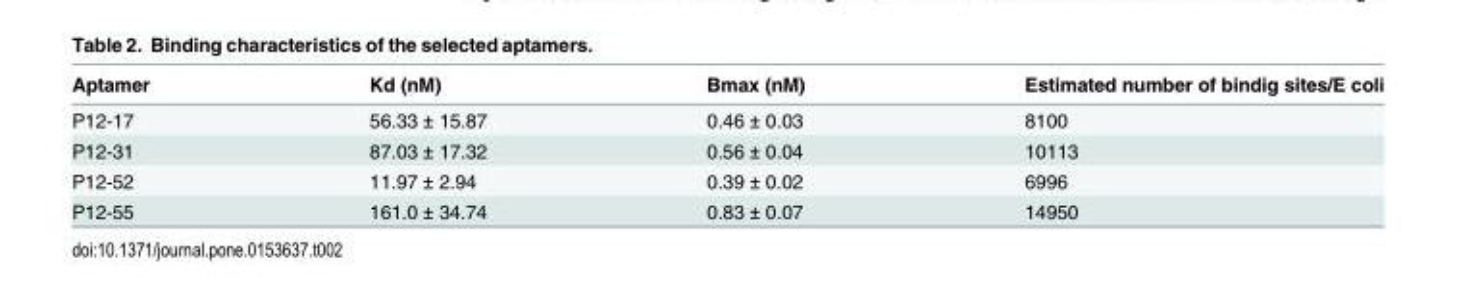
<table><thead><tr><td>Aptamer</td><td>Kd (nM)</td><td>Bmax (nM)</td><td>Estimated number of bindig sites/E coli</td></tr></thead><tbody><tr><td>P12-17</td><td>56.33 ± 15.87</td><td>0.46 ± 0.03</td><td>8100</td></tr><tr><td>P12-31</td><td>87.03 ± 17.32</td><td>0.56 ± 0.04</td><td>10113</td></tr><tr><td>P12-52</td><td>11.97 ± 2.94</td><td>0.39 ± 0.02</td><td>6996</td></tr><tr><td>P12-55</td><td>161.0 ± 34.74</td><td>0.83 ± 0.07</td><td>14950</td></tr></tbody></table>